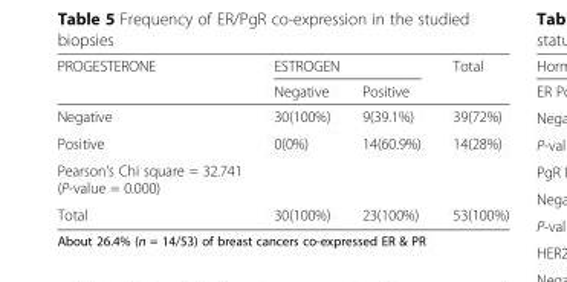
<table><thead><tr><td rowspan="2">PROGESTERONE</td><td colspan="2">ESTROGEN</td><td rowspan="2">Total</td></tr><tr><td>Negative</td><td>Positive</td></tr></thead><tbody><tr><td>Negative</td><td>30(100%)</td><td>9(39.1%)</td><td>39(72%)</td></tr><tr><td>Positive</td><td>0(0%)</td><td>14(60.9%)</td><td>14(28%)</td></tr><tr><td colspan="4">Pearson’s Chi square = 32.741 (P-value = 0.000)</td></tr><tr><td>Total</td><td>30(100%)</td><td>23(100%)</td><td>53(100%)</td></tr></tbody></table>